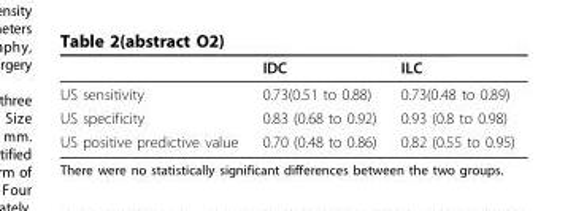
<table><thead><tr><td></td><td>IDC</td><td>ILC</td></tr></thead><tbody><tr><td>US sensitivity</td><td>0.73(0.51 to 0.88)</td><td>0.73(0.48 to 0.89)</td></tr><tr><td>US specificity</td><td>0.83 (0.68 to 0.92)</td><td>0.93 (0.8 to 0.98)</td></tr><tr><td>US positive predictive value</td><td>0.70 (0.48 to 0.86)</td><td>0.82 (0.55 to 0.95)</td></tr></tbody></table>